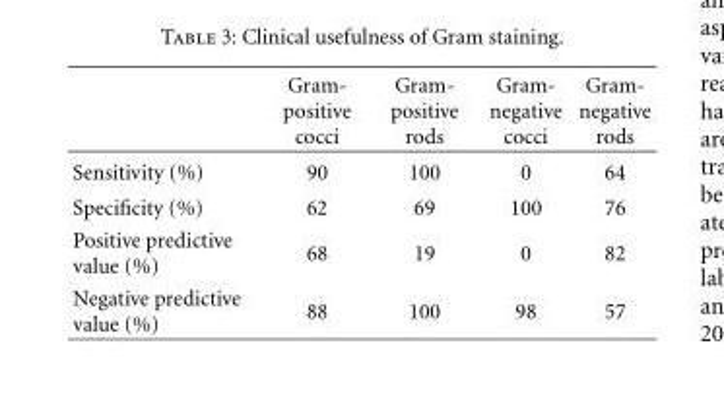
<table><thead><tr><td></td><td>Gram- positive cocci</td><td>Gram- positive rods</td><td>Gram- negative cocci</td><td>Gram- negative rods</td></tr></thead><tbody><tr><td>Sensitivity (%)</td><td>90</td><td>100</td><td>0</td><td>64</td></tr><tr><td>Specificity (%)</td><td>62</td><td>69</td><td>100</td><td>76</td></tr><tr><td>Positive predictive value (%)</td><td>68</td><td>19</td><td>0</td><td>82</td></tr><tr><td>Negative predictive value (%)</td><td>88</td><td>100</td><td>98</td><td>57</td></tr></tbody></table>